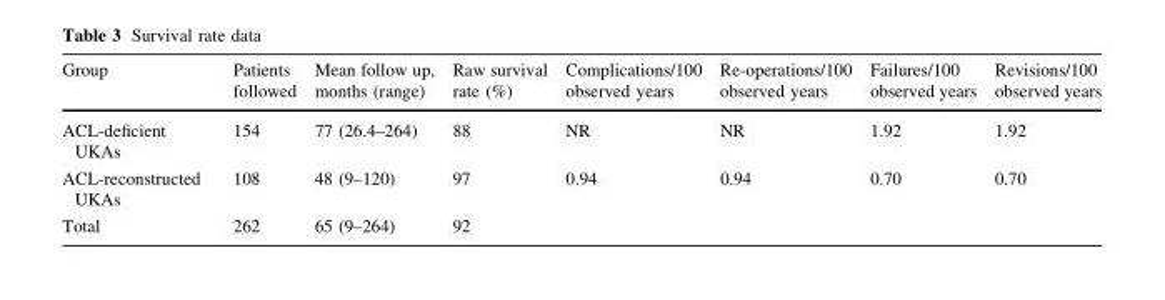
<table><thead><tr><td>Group</td><td>Patients followed</td><td>Mean follow up, months (range)</td><td>Raw survival rate (%)</td><td>Complications/100 observed years</td><td>Re-operations/100 observed years</td><td>Failures/100 observed years</td><td>Revisions/100 observed years</td></tr></thead><tbody><tr><td>ACL-deficient UKAs</td><td>154</td><td>77 (26.4–264)</td><td>88</td><td>NR</td><td>NR</td><td>1.92</td><td>1.92</td></tr><tr><td>ACL-reconstructed UKAs</td><td>108</td><td>48 (9–120)</td><td>97</td><td>0.94</td><td>0.94</td><td>0.70</td><td>0.70</td></tr><tr><td>Total</td><td>262</td><td>65 (9–264)</td><td>92</td><td></td><td></td><td></td><td></td></tr></tbody></table>